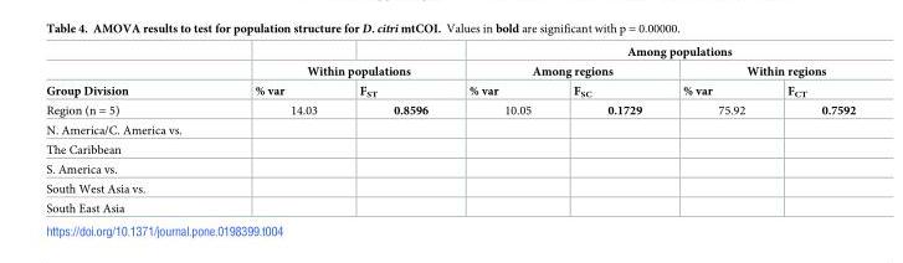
<table><thead><tr><td rowspan="3">Group Division</td><td></td><td></td><td colspan="4">Among populations</td></tr><tr><td colspan="2">Within populations</td><td colspan="2">Among regions</td><td colspan="2">Within regions</td></tr><tr><td>% var</td><td>F<sub>ST</sub></td><td>% var</td><td>F<sub>SC</sub></td><td>% var</td><td>F<sub>CT</sub></td></tr></thead><tbody><tr><td>Region (n = 5)</td><td>14.03</td><td>0.8596</td><td>10.05</td><td>0.1729</td><td>75.92</td><td>0.7592</td></tr><tr><td colspan="7">N. America/C. America vs.</td></tr><tr><td colspan="7">The Caribbean</td></tr><tr><td colspan="7">S. America vs.</td></tr><tr><td colspan="7">South West Asia vs.</td></tr><tr><td>South East Asia</td><td></td><td></td><td></td><td></td><td></td><td></td></tr></tbody></table>